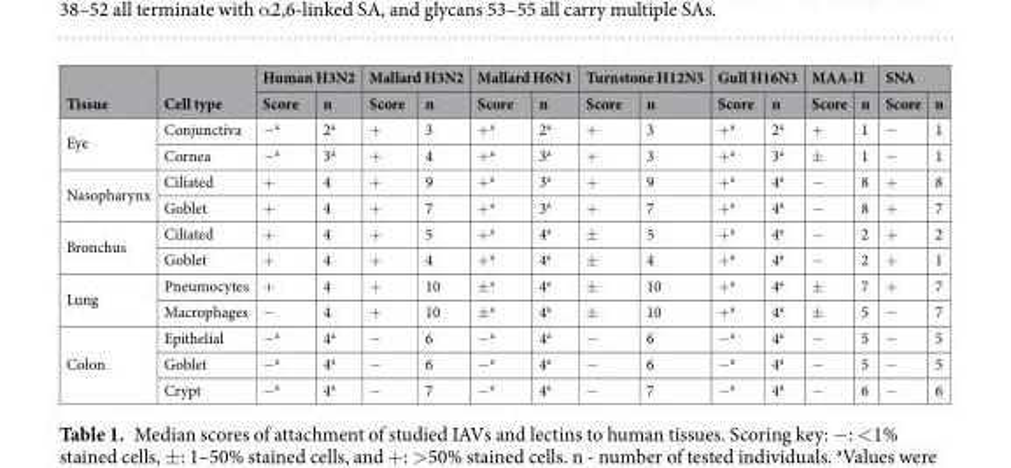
<table><thead><tr><td rowspan="2">Tissue</td><td rowspan="2">Cell type</td><td colspan="2">Human H3N2</td><td colspan="2">Mallard H3N2</td><td colspan="2">Mallard H6N1</td><td colspan="2">Turnstone H12N5</td><td colspan="2">Gull H16N3</td><td colspan="2">MAA-II</td><td colspan="2">SNA</td></tr><tr><td>Score</td><td>n</td><td>Score</td><td>n</td><td>Score</td><td>n</td><td>Score</td><td>n</td><td>Score</td><td>n</td><td>Score</td><td>n</td><td>Score</td><td>n</td></tr></thead><tbody><tr><td rowspan="2">Eye</td><td>Conjunctiva</td><td>−<sup>a</sup></td><td>2<sup>a</sup></td><td>+</td><td>3</td><td>+<sup>a</sup></td><td>2<sup>a</sup></td><td>+</td><td>3</td><td>+<sup>a</sup></td><td>2<sup>a</sup></td><td>+</td><td>1</td><td>−</td><td>1</td></tr><tr><td>Cornea</td><td>−<sup>a</sup></td><td>3<sup>a</sup></td><td>+</td><td>4</td><td>+<sup>a</sup></td><td>3<sup>a</sup></td><td>+</td><td>3</td><td>+<sup>a</sup></td><td>3<sup>a</sup></td><td>±</td><td>1</td><td>−</td><td>1</td></tr><tr><td rowspan="2">Nasopharynx</td><td>Ciliated</td><td>+</td><td>4</td><td>+</td><td>9</td><td>+<sup>a</sup></td><td>3<sup>a</sup></td><td>+</td><td>9</td><td>+<sup>a</sup></td><td>4<sup>a</sup></td><td>−</td><td>8</td><td>+</td><td>8</td></tr><tr><td>Goblet</td><td>+</td><td>4</td><td>+</td><td>7</td><td>+<sup>a</sup></td><td>3<sup>a</sup></td><td>+</td><td>7</td><td>+<sup>a</sup></td><td>4<sup>a</sup></td><td>−</td><td>8</td><td>+</td><td>7</td></tr><tr><td rowspan="2">Bronchus</td><td>Ciliated</td><td>+</td><td>4</td><td>+</td><td>5</td><td>+<sup>a</sup></td><td>4<sup>a</sup></td><td>±</td><td>5</td><td>+<sup>a</sup></td><td>4<sup>a</sup></td><td>−</td><td>2</td><td>+</td><td>2</td></tr><tr><td>Goblet</td><td>+</td><td>4</td><td>+</td><td>4</td><td>+<sup>a</sup></td><td>4<sup>a</sup></td><td>±</td><td>4</td><td>+<sup>a</sup></td><td>4<sup>a</sup></td><td>−</td><td>2</td><td>+</td><td>1</td></tr><tr><td rowspan="2">Lung</td><td>Pneumocytes</td><td>+</td><td>4</td><td>+</td><td>10</td><td>±<sup>a</sup></td><td>4<sup>a</sup></td><td>±</td><td>10</td><td>+<sup>a</sup></td><td>4<sup>a</sup></td><td>±</td><td>7</td><td>+</td><td>7</td></tr><tr><td>Macrophages</td><td>−</td><td>4</td><td>+</td><td>10</td><td>±<sup>a</sup></td><td>4<sup>a</sup></td><td>±</td><td>10</td><td>+<sup>a</sup></td><td>4<sup>a</sup></td><td>±</td><td>5</td><td>−</td><td>7</td></tr><tr><td rowspan="3">Colon</td><td>Epithelial</td><td>−<sup>a</sup></td><td>4<sup>a</sup></td><td>−</td><td>6</td><td>−<sup>a</sup></td><td>4<sup>a</sup></td><td>−</td><td>6</td><td>−<sup>a</sup></td><td>4<sup>a</sup></td><td>−</td><td>5</td><td>−</td><td>5</td></tr><tr><td>Goblet</td><td>−<sup>a</sup></td><td>4<sup>a</sup></td><td>−</td><td>6</td><td>−<sup>a</sup></td><td>4<sup>a</sup></td><td>−</td><td>6</td><td>−<sup>a</sup></td><td>4<sup>a</sup></td><td>−</td><td>5</td><td>−</td><td>5</td></tr><tr><td>Crypt</td><td>−<sup>a</sup></td><td>4<sup>a</sup></td><td>−</td><td>7</td><td>−<sup>a</sup></td><td>4<sup>a</sup></td><td>−</td><td>7</td><td>−<sup>a</sup></td><td>4<sup>a</sup></td><td>−</td><td>6</td><td>−</td><td>6</td></tr></tbody></table>